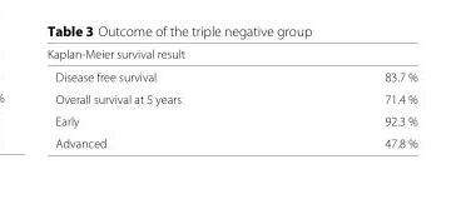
<table><thead><tr><td>Kaplan-Meier survival result</td><td></td></tr></thead><tbody><tr><td>Disease free survival</td><td>83.7 %</td></tr><tr><td>Overall survival at 5 years</td><td>71.4 %</td></tr><tr><td>Early</td><td>92.3 %</td></tr><tr><td>Advanced</td><td>47.8 %</td></tr></tbody></table>